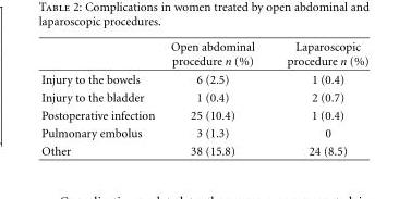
<table><thead><tr><td></td><td>Open abdominal procedure n (%)</td><td>Laparoscopic procedure n (%)</td></tr></thead><tbody><tr><td>Injury to the bowels</td><td>6 (2.5)</td><td>1 (0.4)</td></tr><tr><td>Injury to the bladder</td><td>1 (0.4)</td><td>2 (0.7)</td></tr><tr><td>Postoperative infection</td><td>25 (10.4)</td><td>1 (0.4)</td></tr><tr><td>Pulmonary embolus</td><td>3 (1.3)</td><td>0</td></tr><tr><td>Other</td><td>38 (15.8)</td><td>24 (8.5)</td></tr></tbody></table>